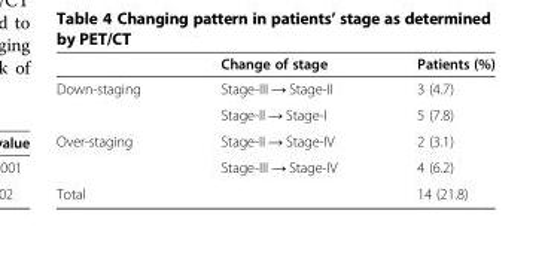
<table><thead><tr><td></td><td>Change of stage</td><td>Patients (%)</td></tr></thead><tbody><tr><td rowspan="2">Down-staging</td><td>Stage-III → Stage-II</td><td>3 (4.7)</td></tr><tr><td>Stage-II → Stage-I</td><td>5 (7.8)</td></tr><tr><td rowspan="2">Over-staging</td><td>Stage-II → Stage-IV</td><td>2 (3.1)</td></tr><tr><td>Stage-III → Stage-IV</td><td>4 (6.2)</td></tr><tr><td>Total</td><td></td><td>14 (21.8)</td></tr></tbody></table>